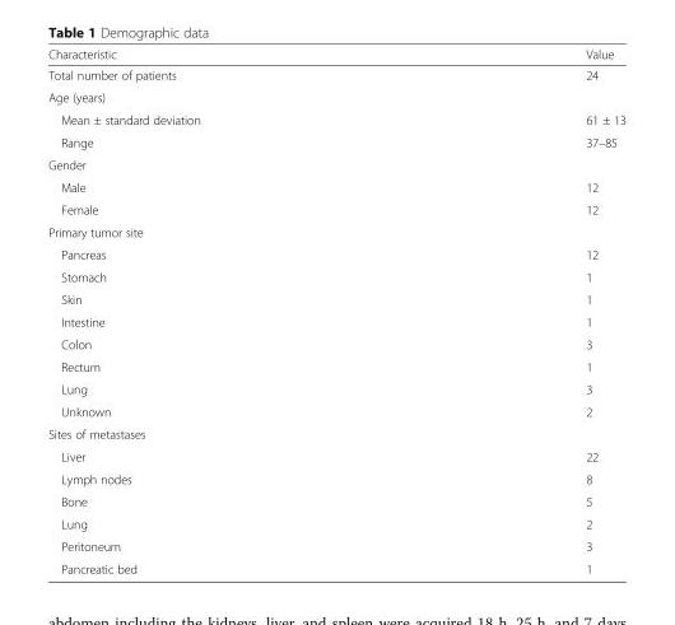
<table><thead><tr><td>Characteristic</td><td>Value</td></tr></thead><tbody><tr><td>Total number of patients</td><td>24</td></tr><tr><td colspan="2">Age (years)</td></tr><tr><td>Mean ± standard deviation</td><td>61 ± 13</td></tr><tr><td>Range</td><td>37–85</td></tr><tr><td colspan="2">Gender</td></tr><tr><td>Male</td><td>12</td></tr><tr><td>Female</td><td>12</td></tr><tr><td colspan="2">Primary tumor site</td></tr><tr><td>Pancreas</td><td>12</td></tr><tr><td>Stomach</td><td>1</td></tr><tr><td>Skin</td><td>1</td></tr><tr><td>Intestine</td><td>1</td></tr><tr><td>Colon</td><td>3</td></tr><tr><td>Rectum</td><td>1</td></tr><tr><td>Lung</td><td>3</td></tr><tr><td>Unknown</td><td>2</td></tr><tr><td colspan="2">Sites of metastases</td></tr><tr><td>Liver</td><td>22</td></tr><tr><td>Lymph nodes</td><td>8</td></tr><tr><td>Bone</td><td>5</td></tr><tr><td>Lung</td><td>2</td></tr><tr><td>Peritoneum</td><td>3</td></tr><tr><td>Pancreatic bed</td><td>1</td></tr></tbody></table>